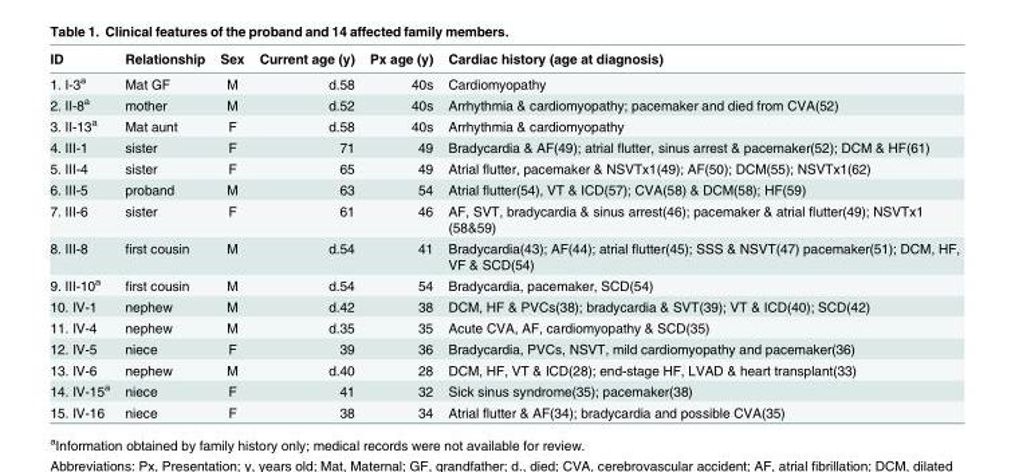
<table><thead><tr><td>ID</td><td>Relationship</td><td>Sex</td><td>Current age (y)</td><td>Px age (y)</td><td>Cardiac history (age at diagnosis)</td></tr></thead><tbody><tr><td>1. I-3<sup>a</sup></td><td>Mat GF</td><td>M</td><td>d.58</td><td>40s</td><td>Cardiomyopathy</td></tr><tr><td>2. II-8<sup>a</sup></td><td>mother</td><td>M</td><td>d.52</td><td>40s</td><td>Arrhythmia &amp; cardiomyopathy; pacemaker and died from CVA(52)</td></tr><tr><td>3. II-13<sup>a</sup></td><td>Mat aunt</td><td>F</td><td>d.58</td><td>40s</td><td>Arrhythmia &amp; cardiomyopathy</td></tr><tr><td>4. III-1</td><td>sister</td><td>F</td><td>71</td><td>49</td><td>Bradycardia &amp; AF(49); atrial flutter, sinus arrest &amp; pacemaker(52); DCM &amp; HF(61)</td></tr><tr><td>5. III-4</td><td>sister</td><td>F</td><td>65</td><td>49</td><td>Atrial flutter, pacemaker &amp; NSVTx1(49); AF(50); DCM(55); NSVTx1(62)</td></tr><tr><td>6. III-5</td><td>proband</td><td>M</td><td>63</td><td>54</td><td>Atrial flutter(54), VT &amp; ICD(57); CVA(58) &amp; DCM(58); HF(59)</td></tr><tr><td>7. III-6</td><td>sister</td><td>F</td><td>61</td><td>46</td><td>AF, SVT, bradycardia &amp; sinus arrest(46); pacemaker &amp; atrial flutter(49); NSVTx1 (58&amp;59)</td></tr><tr><td>8. III-8</td><td>first cousin</td><td>M</td><td>d.54</td><td>41</td><td>Bradycardia(43); AF(44); atrial flutter(45); SSS &amp; NSVT(47) pacemaker(51); DCM, HF, VF &amp; SCD(54)</td></tr><tr><td>9. III-10<sup>a</sup></td><td>first cousin</td><td>M</td><td>d.54</td><td>54</td><td>Bradycardia, pacemaker, SCD(54)</td></tr><tr><td>10. IV-1</td><td>nephew</td><td>M</td><td>d.42</td><td>38</td><td>DCM, HF &amp; PVCs(38); bradycardia &amp; SVT(39); VT &amp; ICD(40); SCD(42)</td></tr><tr><td>11. IV-4</td><td>nephew</td><td>M</td><td>d.35</td><td>35</td><td>Acute CVA, AF, cardiomyopathy &amp; SCD(35)</td></tr><tr><td>12. IV-5</td><td>niece</td><td>F</td><td>39</td><td>36</td><td>Bradycardia, PVCs, NSVT, mild cardiomyopathy and pacemaker(36)</td></tr><tr><td>13. IV-6</td><td>nephew</td><td>M</td><td>d.40</td><td>28</td><td>DCM, HF, VT &amp; ICD(28); end-stage HF, LVAD &amp; heart transplant(33)</td></tr><tr><td>14. IV-15<sup>a</sup></td><td>niece</td><td>F</td><td>41</td><td>32</td><td>Sick sinus syndrome(35); pacemaker(38)</td></tr><tr><td>15. IV-16</td><td>niece</td><td>F</td><td>38</td><td>34</td><td>Atrial flutter &amp; AF(34); bradycardia and possible CVA(35)</td></tr></tbody></table>